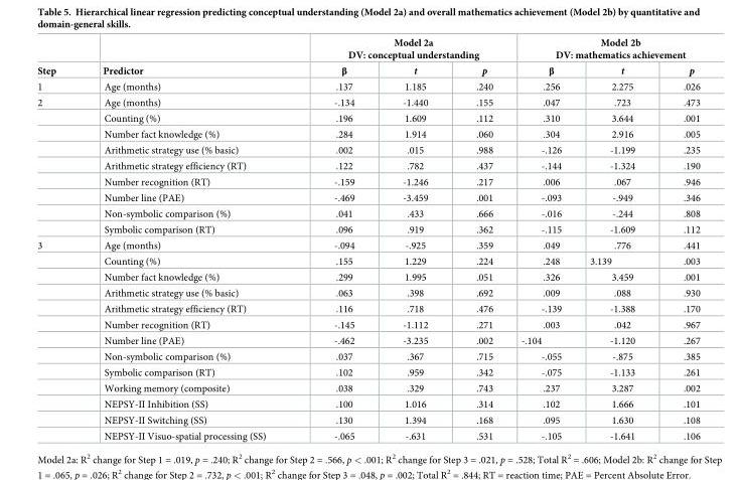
<table><thead><tr><td rowspan="2">Step</td><td rowspan="2">Predictor</td><td colspan="3">Model 2a DV: conceptual understanding</td><td colspan="3">Model 2b DV: mathematics achievement</td></tr><tr><td>β</td><td>t</td><td>p</td><td>β</td><td>t</td><td>p</td></tr></thead><tbody><tr><td>1</td><td>Age (months)</td><td>.137</td><td>1.185</td><td>.240</td><td>.256</td><td>2.275</td><td>.026</td></tr><tr><td rowspan="9">2</td><td>Age (months)</td><td>-.134</td><td>-1.440</td><td>.155</td><td>.047</td><td>.723</td><td>.473</td></tr><tr><td>Counting (%)</td><td>.196</td><td>1.609</td><td>.112</td><td>.310</td><td>3.644</td><td>.001</td></tr><tr><td>Number fact knowledge (%)</td><td>.284</td><td>1.914</td><td>.060</td><td>.304</td><td>2.916</td><td>.005</td></tr><tr><td>Arithmetic strategy use (% basic)</td><td>.002</td><td>.015</td><td>.988</td><td>-.126</td><td>-1.199</td><td>.235</td></tr><tr><td>Arithmetic strategy efficiency (RT)</td><td>.122</td><td>.782</td><td>.437</td><td>-.144</td><td>-1.324</td><td>.190</td></tr><tr><td>Number recognition (RT)</td><td>-.159</td><td>-1.246</td><td>.217</td><td>.006</td><td>.067</td><td>.946</td></tr><tr><td>Number line (PAE)</td><td>-.469</td><td>-3.459</td><td>.001</td><td>-.093</td><td>-.949</td><td>.346</td></tr><tr><td>Non-symbolic comparison (%)</td><td>.041</td><td>.433</td><td>.666</td><td>-.016</td><td>-.244</td><td>.808</td></tr><tr><td>Symbolic comparison (RT)</td><td>.096</td><td>.919</td><td>.362</td><td>-.115</td><td>-1.609</td><td>.112</td></tr><tr><td rowspan="13">3</td><td>Age (months)</td><td>-.094</td><td>-.925</td><td>.359</td><td>.049</td><td>.776</td><td>.441</td></tr><tr><td>Counting (%)</td><td>.155</td><td>1.229</td><td>.224</td><td>.248</td><td>3.139</td><td>.003</td></tr><tr><td>Number fact knowledge (%)</td><td>.299</td><td>1.995</td><td>.051</td><td>.326</td><td>3.459</td><td>.001</td></tr><tr><td>Arithmetic strategy use (% basic)</td><td>.063</td><td>.398</td><td>.692</td><td>.009</td><td>.088</td><td>.930</td></tr><tr><td>Arithmetic strategy efficiency (RT)</td><td>.116</td><td>.718</td><td>.476</td><td>-.139</td><td>-1.388</td><td>.170</td></tr><tr><td>Number recognition (RT)</td><td>-.145</td><td>-1.112</td><td>.271</td><td>.003</td><td>.042</td><td>.967</td></tr><tr><td>Number line (PAE)</td><td>-.462</td><td>-3.235</td><td>.002</td><td>-.104</td><td>-1.120</td><td>.267</td></tr><tr><td>Non-symbolic comparison (%)</td><td>.037</td><td>.367</td><td>.715</td><td>-.055</td><td>-.875</td><td>.385</td></tr><tr><td>Symbolic comparison (RT)</td><td>.102</td><td>.959</td><td>.342</td><td>-.075</td><td>-1.133</td><td>.261</td></tr><tr><td>Working memory (composite)</td><td>.038</td><td>.329</td><td>.743</td><td>.237</td><td>3.287</td><td>.002</td></tr><tr><td>NEPSY-II Inhibition (SS)</td><td>.100</td><td>1.016</td><td>.314</td><td>.102</td><td>1.666</td><td>.101</td></tr><tr><td>NEPSY-II Switching (SS)</td><td>.130</td><td>1.394</td><td>.168</td><td>.095</td><td>1.630</td><td>.108</td></tr><tr><td>NEPSY-II Visuo-spatial processing (SS)</td><td>-.065</td><td>-.631</td><td>.531</td><td>-.105</td><td>-1.641</td><td>.106</td></tr></tbody></table>